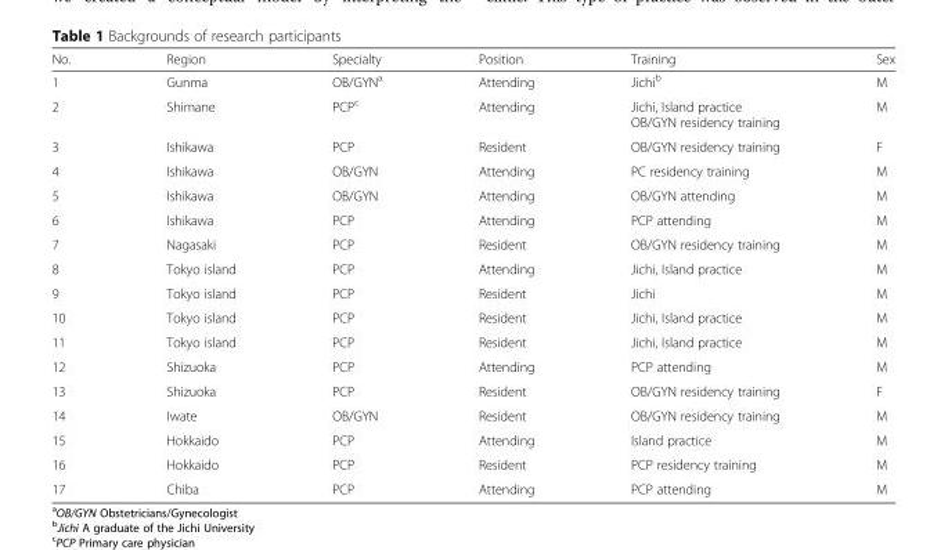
<table><thead><tr><td>No.</td><td>Region</td><td>Specialty</td><td>Position</td><td>Training</td><td>Sex</td></tr></thead><tbody><tr><td>1</td><td>Gunma</td><td>OB/GYN<sup>a</sup></td><td>Attending</td><td>Jichi<sup>b</sup></td><td>M</td></tr><tr><td>2</td><td>Shimane</td><td>PCP<sup>c</sup></td><td>Attending</td><td>Jichi, Island practice OB/GYN residency training</td><td>M</td></tr><tr><td>3</td><td>Ishikawa</td><td>PCP</td><td>Resident</td><td>OB/GYN residency training</td><td>F</td></tr><tr><td>4</td><td>Ishikawa</td><td>OB/GYN</td><td>Attending</td><td>PC residency training</td><td>M</td></tr><tr><td>5</td><td>Ishikawa</td><td>OB/GYN</td><td>Attending</td><td>OB/GYN attending</td><td>M</td></tr><tr><td>6</td><td>Ishikawa</td><td>PCP</td><td>Attending</td><td>PCP attending</td><td>M</td></tr><tr><td>7</td><td>Nagasaki</td><td>PCP</td><td>Resident</td><td>OB/GYN residency training</td><td>M</td></tr><tr><td>8</td><td>Tokyo island</td><td>PCP</td><td>Attending</td><td>Jichi, Island practice</td><td>M</td></tr><tr><td>9</td><td>Tokyo island</td><td>PCP</td><td>Resident</td><td>Jichi</td><td>M</td></tr><tr><td>10</td><td>Tokyo island</td><td>PCP</td><td>Resident</td><td>Jichi, Island practice</td><td>M</td></tr><tr><td>11</td><td>Tokyo island</td><td>PCP</td><td>Resident</td><td>Jichi, Island practice</td><td>M</td></tr><tr><td>12</td><td>Shizuoka</td><td>PCP</td><td>Attending</td><td>PCP attending</td><td>M</td></tr><tr><td>13</td><td>Shizuoka</td><td>PCP</td><td>Resident</td><td>OB/GYN residency training</td><td>F</td></tr><tr><td>14</td><td>Iwate</td><td>OB/GYN</td><td>Resident</td><td>OB/GYN residency training</td><td>M</td></tr><tr><td>15</td><td>Hokkaido</td><td>PCP</td><td>Attending</td><td>Island practice</td><td>M</td></tr><tr><td>16</td><td>Hokkaido</td><td>PCP</td><td>Resident</td><td>PCP residency training</td><td>M</td></tr><tr><td>17</td><td>Chiba</td><td>PCP</td><td>Attending</td><td>PCP attending</td><td>M</td></tr></tbody></table>